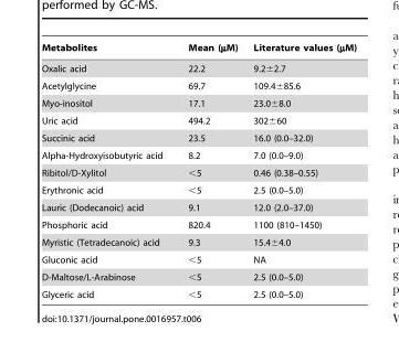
<table><thead><tr><td>Metabolites</td><td>Mean (µM)</td><td>Literature values (µM)</td></tr></thead><tbody><tr><td>Oxalic acid</td><td>22.2</td><td>9.2±2.7</td></tr><tr><td>Acetylglycine</td><td>69.7</td><td>109.4±85.6</td></tr><tr><td>Myo-inositol</td><td>17.1</td><td>23.0±8.0</td></tr><tr><td>Uric acid</td><td>494.2</td><td>302±60</td></tr><tr><td>Succinic acid</td><td>23.5</td><td>16.0 (0.0–32.0)</td></tr><tr><td>Alpha-Hydroxyisobutyric acid</td><td>8.2</td><td>7.0 (0.0–9.0)</td></tr><tr><td>Ribitol/D-Xylitol</td><td>&lt;5</td><td>0.46 (0.38–0.55)</td></tr><tr><td>Erythronic acid</td><td>&lt;5</td><td>2.5 (0.0–5.0)</td></tr><tr><td>Lauric (Dodecanoic) acid</td><td>9.1</td><td>12.0 (2.0–37.0)</td></tr><tr><td>Phosphoric acid</td><td>820.4</td><td>1100 (810–1450)</td></tr><tr><td>Myristic (Tetradecanoic) acid</td><td>9.3</td><td>15.4±4.0</td></tr><tr><td>Gluconic acid</td><td>&lt;5</td><td>NA</td></tr><tr><td>D-Maltose/L-Arabinose</td><td>&lt;5</td><td>2.5 (0.0–5.0)</td></tr><tr><td>Glyceric acid</td><td>&lt;5</td><td>2.5 (0.0–5.0)</td></tr></tbody></table>